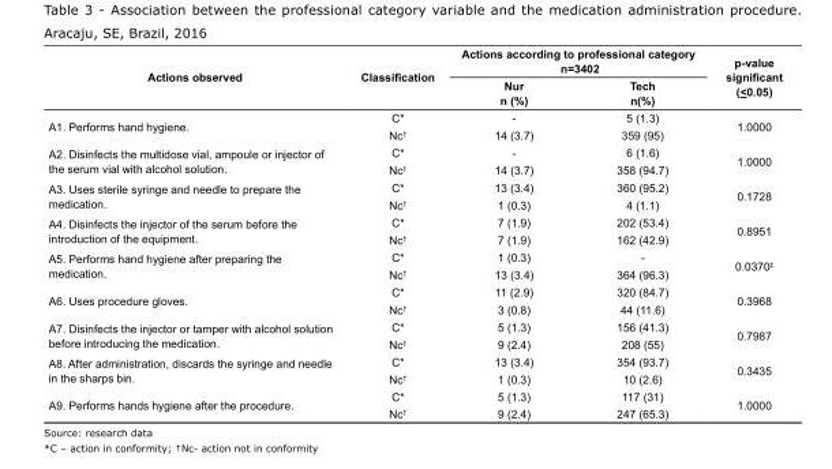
<table><tbody><tr><td rowspan="2">Actions observed</td><td rowspan="2">Classification</td><td colspan="2">Actions according to professional category n=3402</td><td rowspan="2">p-value significant (&lt;0.05)</td></tr><tr><td>Nur n (%)</td><td>Tech n(%)</td></tr><tr><td rowspan="2">A1. Performs hand hygiene.</td><td>C*</td><td>-</td><td>5 (1.3)</td><td rowspan="2">1.0000</td></tr><tr><td>Nc<sup>†</sup></td><td>14 (3.7)</td><td>359 (95)</td></tr><tr><td rowspan="2">A2. Disinfects the multidose vial, ampoule or injector of the serum vial with alcohol solution.</td><td>C*</td><td>-</td><td>6 (1.6)</td><td rowspan="2">1.0000</td></tr><tr><td>Nc<sup>†</sup></td><td>14 (3.7)</td><td>358 (94.7)</td></tr><tr><td rowspan="2">A3. Uses sterile syringe and needle to prepare the medication.</td><td>C*</td><td>13 (3.4)</td><td>360 (95.2)</td><td rowspan="2">0.1728</td></tr><tr><td>Nc<sup>†</sup></td><td>1 (0.3)</td><td>4 (1.1)</td></tr><tr><td rowspan="2">A4. Disinfects the injector of the serum before the introduction of the equipment.</td><td>C*</td><td>7 (1.9)</td><td>202 (53.4)</td><td rowspan="2">0.8951</td></tr><tr><td>Nc<sup>†</sup></td><td>7 (1.9)</td><td>162 (42.9)</td></tr><tr><td rowspan="2">A5. Performs hand hygiene after preparing the medication.</td><td>C*</td><td>1 (0.3)</td><td>-</td><td rowspan="2">0.0370<sup>‡</sup></td></tr><tr><td>Nc<sup>†</sup></td><td>13 (3.4)</td><td>364 (96.3)</td></tr><tr><td rowspan="2">A6. Uses procedure gloves.</td><td>C*</td><td>11 (2.9)</td><td>320 (84.7)</td><td rowspan="2">0.3968</td></tr><tr><td>Nc<sup>†</sup></td><td>3 (0.8)</td><td>44 (11.6)</td></tr><tr><td rowspan="2">A7. Disinfects the injector or tamper with alcohol solution before introducing the medication.</td><td>C*</td><td>5 (1.3)</td><td>156 (41.3)</td><td rowspan="2">0.7987</td></tr><tr><td>Nc<sup>†</sup></td><td>9 (2.4)</td><td>208 (55)</td></tr><tr><td rowspan="2">A8. After administration, discards the syringe and needle in the sharps bin.</td><td>C*</td><td>13 (3.4)</td><td>354 (93.7)</td><td rowspan="2">0.3435</td></tr><tr><td>Nc<sup>†</sup></td><td>1 (0.3)</td><td>10 (2.6)</td></tr><tr><td rowspan="2">A9. Performs hands hygiene after the procedure.</td><td>C*</td><td>5 (1.3)</td><td>117 (31)</td><td rowspan="2">1.0000</td></tr><tr><td>Nc<sup>†</sup></td><td>9 (2.4)</td><td>247 (65.3)</td></tr></tbody></table>